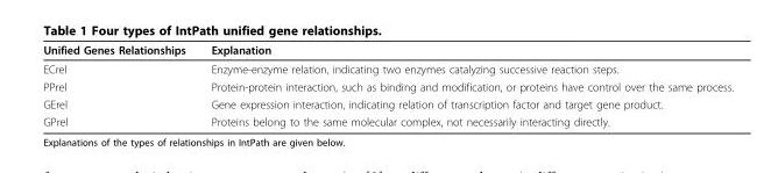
<table><thead><tr><td>Unified Genes Relationships</td><td>Explanation</td></tr></thead><tbody><tr><td>ECrel</td><td>Enzyme-enzyme relation, indicating two enzymes catalyzing successive reaction steps.</td></tr><tr><td>PPrel</td><td>Protein-protein interaction, such as binding and modification, or proteins have control over the same process.</td></tr><tr><td>GErel</td><td>Gene expression interaction, indicating relation of transcription factor and target gene product.</td></tr><tr><td>GPrel</td><td>Proteins belong to the same molecular complex, not necessarily interacting directly.</td></tr></tbody></table>